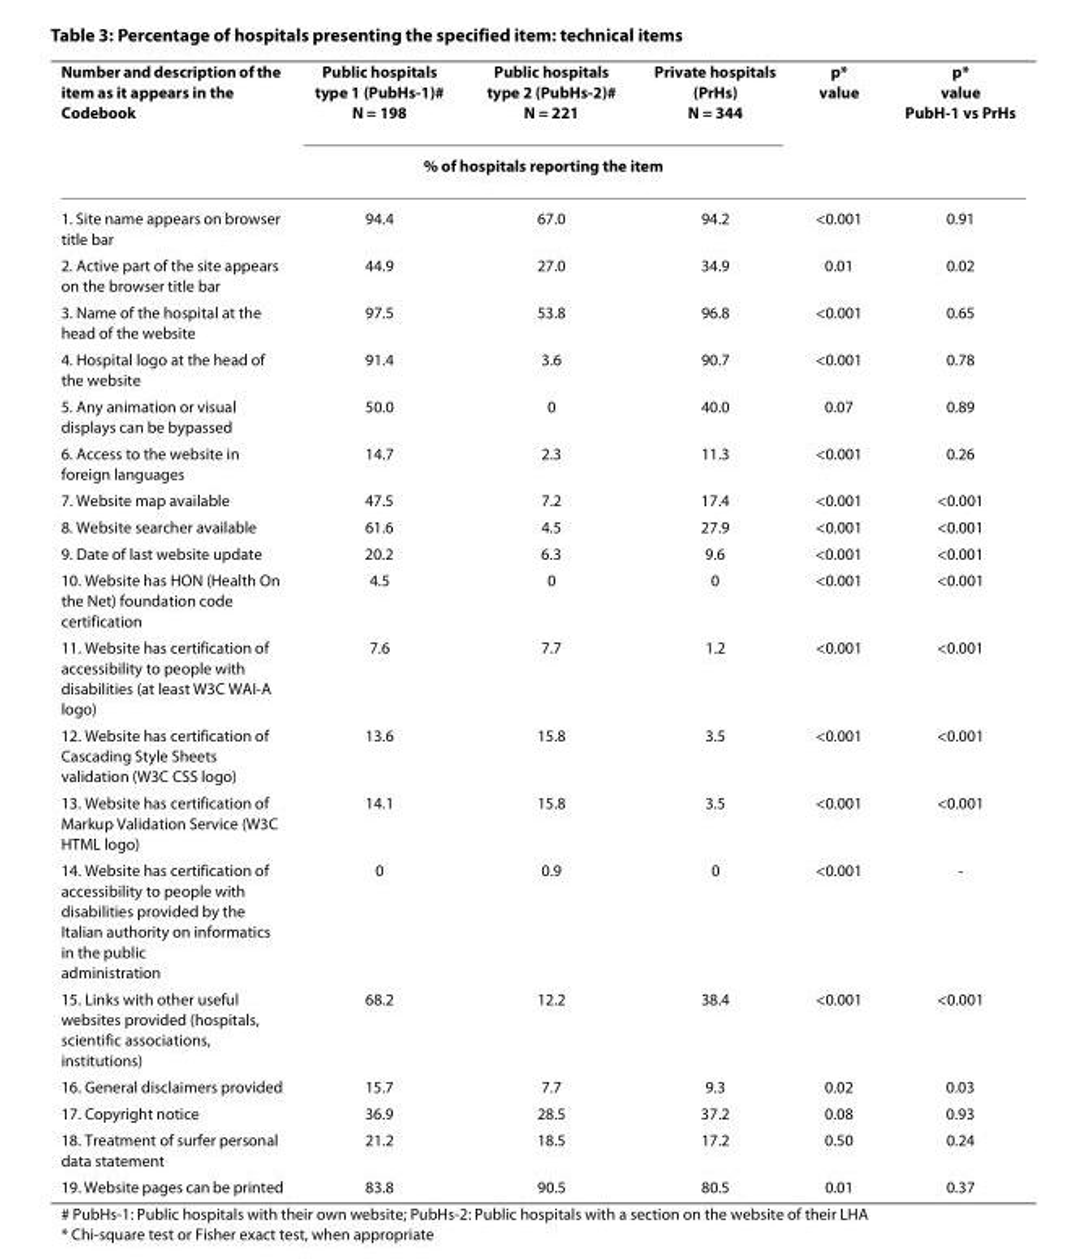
<table><thead><tr><td rowspan="2">Number and description of the item as it appears in the Codebook</td><td>Public hospitals type 1 (PubHs-1)# N = 198</td><td>Public hospitals type 2 (PubHs-2)# N = 221</td><td>Private hospitals (PrHs) N = 344</td><td rowspan="2">p* value</td><td rowspan="2">p* value PubH-1 vs PrHs</td></tr><tr><td colspan="3">% of hospitals reporting the item</td></tr></thead><tbody><tr><td>1. Site name appears on browser title bar</td><td>94.4</td><td>67.0</td><td>94.2</td><td>&lt;0.001</td><td>0.91</td></tr><tr><td>2. Active part of the site appears on the browser title bar</td><td>44.9</td><td>27.0</td><td>34.9</td><td>0.01</td><td>0.02</td></tr><tr><td>3. Name of the hospital at the head of the website</td><td>97.5</td><td>53.8</td><td>96.8</td><td>&lt;0.001</td><td>0.65</td></tr><tr><td>4. Hospital logo at the head of the website</td><td>91.4</td><td>3.6</td><td>90.7</td><td>&lt;0.001</td><td>0.78</td></tr><tr><td>5. Any animation or visual displays can be bypassed</td><td>50.0</td><td>0</td><td>40.0</td><td>0.07</td><td>0.89</td></tr><tr><td>6. Access to the website in foreign languages</td><td>14.7</td><td>2.3</td><td>11.3</td><td>&lt;0.001</td><td>0.26</td></tr><tr><td>7. Website map available</td><td>47.5</td><td>7.2</td><td>17.4</td><td>&lt;0.001</td><td>&lt;0.001</td></tr><tr><td>8. Website searcher available</td><td>61.6</td><td>4.5</td><td>27.9</td><td>&lt;0.001</td><td>&lt;0.001</td></tr><tr><td>9. Date of last website update</td><td>20.2</td><td>6.3</td><td>9.6</td><td>&lt;0.001</td><td>&lt;0.001</td></tr><tr><td>10. Website has HON (Health On the Net) foundation code certification</td><td>4.5</td><td>0</td><td>0</td><td>&lt;0.001</td><td>&lt;0.001</td></tr><tr><td>11. Website has certification of accessibility to people with disabilities (at least W3C WAI-A logo)</td><td>7.6</td><td>7.7</td><td>1.2</td><td>&lt;0.001</td><td>&lt;0.001</td></tr><tr><td>12. Website has certification of Cascading Style Sheets validation (W3C CSS logo)</td><td>13.6</td><td>15.8</td><td>3.5</td><td>&lt;0.001</td><td>&lt;0.001</td></tr><tr><td>13. Website has certification of Markup Validation Service (W3C HTML logo)</td><td>14.1</td><td>15.8</td><td>3.5</td><td>&lt;0.001</td><td>&lt;0.001</td></tr><tr><td>14. Website has certification of accessibility to people with disabilities provided by the Italian authority on informatics in the public administration</td><td>0</td><td>0.9</td><td>0</td><td>&lt;0.001</td><td>-</td></tr><tr><td>15. Links with other useful websites provided (hospitals, scientific associations, institutions)</td><td>68.2</td><td>12.2</td><td>38.4</td><td>&lt;0.001</td><td>&lt;0.001</td></tr><tr><td>16. General disclaimers provided</td><td>15.7</td><td>7.7</td><td>9.3</td><td>0.02</td><td>0.03</td></tr><tr><td>17. Copyright notice</td><td>36.9</td><td>28.5</td><td>37.2</td><td>0.08</td><td>0.93</td></tr><tr><td>18. Treatment of surfer personal data statement</td><td>21.2</td><td>18.5</td><td>17.2</td><td>0.50</td><td>0.24</td></tr><tr><td>19. Website pages can be printed</td><td>83.8</td><td>90.5</td><td>80.5</td><td>0.01</td><td>0.37</td></tr></tbody></table>